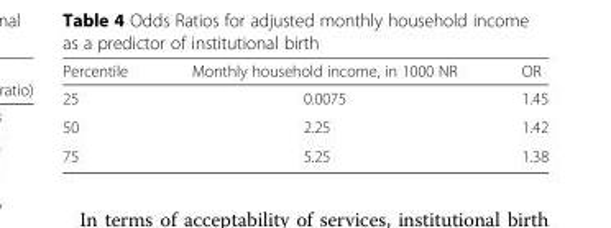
<table><thead><tr><td>Percentile</td><td>Monthly household income, in 1000 NR</td><td>OR</td></tr></thead><tbody><tr><td>25</td><td>0.0075</td><td>1.45</td></tr><tr><td>50</td><td>2.25</td><td>1.42</td></tr><tr><td>75</td><td>5.25</td><td>1.38</td></tr></tbody></table>